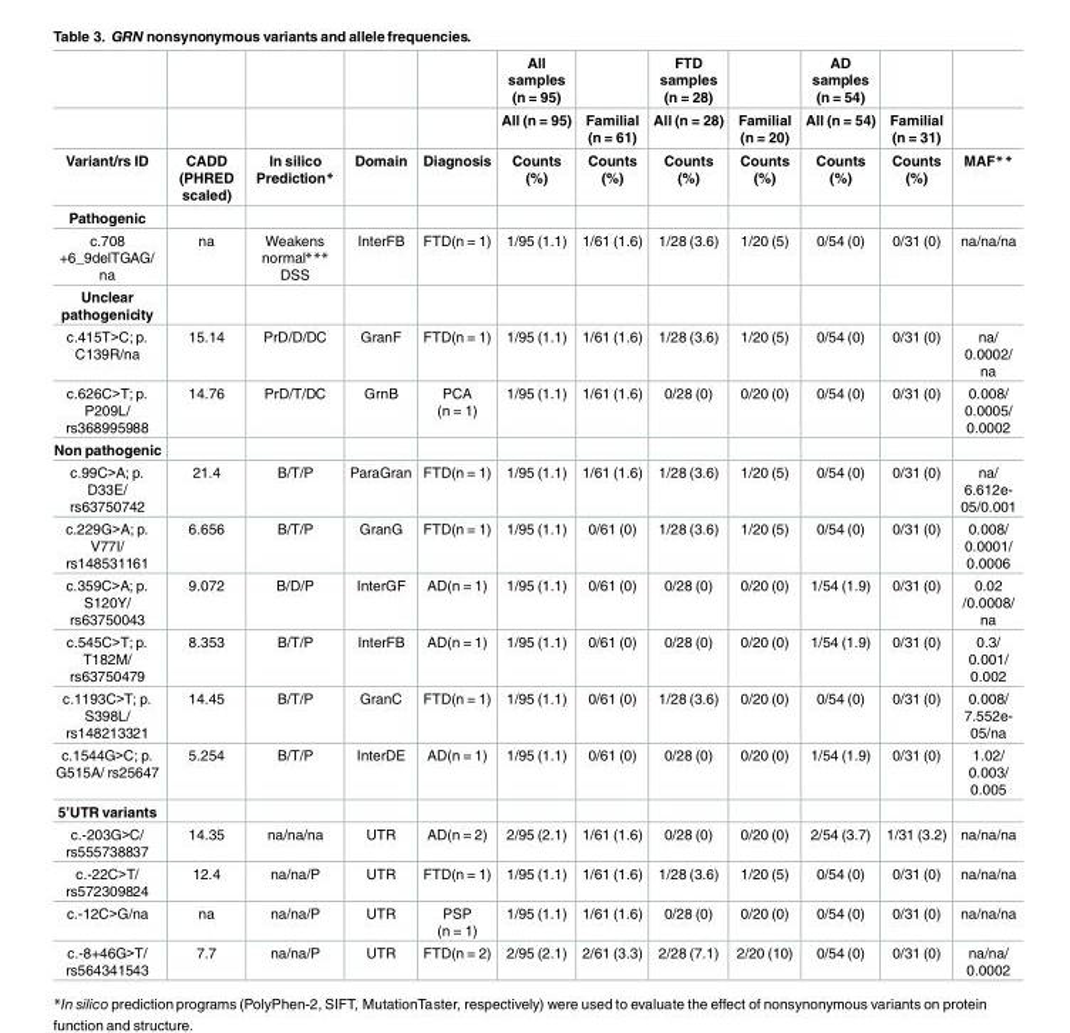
<table><thead><tr><td rowspan="3">Variant/rs ID</td><td rowspan="3">CADD (PHRED scaled)</td><td rowspan="3">In silico Prediction*</td><td rowspan="3">Domain</td><td rowspan="3">Diagnosis</td><td rowspan="3">All samples (n = 95) All (n = 95) Counts (%)</td><td rowspan="3">Familial (n = 61) Counts (%)</td><td rowspan="3">FTD samples (n = 28) All (n = 28) Counts (%)</td><td rowspan="3">Familial (n = 20) Counts (%)</td><td rowspan="3">AD samples (n = 54) All (n = 54) Counts (%)</td><td rowspan="3">Familial (n = 31) Counts (%)</td><td rowspan="3">MAF**</td></tr><tr></tr><tr></tr></thead><tbody><tr><td colspan="12">Pathogenic</td></tr><tr><td>c.708 +6_9delTGAG/ na</td><td>na</td><td>Weakens normal*** DSS</td><td>InterFB</td><td>FTD(n = 1)</td><td>1/95 (1.1)</td><td>1/61 (1.6)</td><td>1/28 (3.6)</td><td>1/20 (5)</td><td>0/54 (0)</td><td>0/31 (0)</td><td>na/na/na</td></tr><tr><td colspan="12">Unclear pathogenicity</td></tr><tr><td>c.415T&gt;C; p. C139R/na</td><td>15.14</td><td>PrD/D/DC</td><td>GranF</td><td>FTD(n = 1)</td><td>1/95 (1.1)</td><td>1/61 (1.6)</td><td>1/28 (3.6)</td><td>1/20 (5)</td><td>0/54 (0)</td><td>0/31 (0)</td><td>na/ 0.0002/ na</td></tr><tr><td>c.626C&gt;T; p. P209L/ rs368995988</td><td>14.76</td><td>PrD/T/DC</td><td>GrnB</td><td>PCA (n = 1)</td><td>1/95 (1.1)</td><td>1/61 (1.6)</td><td>0/28 (0)</td><td>0/20 (0)</td><td>0/54 (0)</td><td>0/31 (0)</td><td>0.008/ 0.0005/ 0.0002</td></tr><tr><td colspan="12">Non pathogenic</td></tr><tr><td>c.99C&gt;A; p. D33E/ rs63750742</td><td>21.4</td><td>B/T/P</td><td>ParaGran</td><td>FTD(n = 1)</td><td>1/95 (1.1)</td><td>1/61 (1.6)</td><td>1/28 (3.6)</td><td>1/20 (5)</td><td>0/54 (0)</td><td>0/31 (0)</td><td>na/ 6.612e- 05/0.001</td></tr><tr><td>c.229G&gt;A; p. V77I/ rs148531161</td><td>6.656</td><td>B/T/P</td><td>GranG</td><td>FTD(n = 1)</td><td>1/95 (1.1)</td><td>0/61 (0)</td><td>1/28 (3.6)</td><td>1/20 (5)</td><td>0/54 (0)</td><td>0/31 (0)</td><td>0.008/ 0.0001/ 0.0006</td></tr><tr><td>c.359C&gt;A; p. S120Y/ rs63750043</td><td>9.072</td><td>B/D/P</td><td>InterGF</td><td>AD(n = 1)</td><td>1/95 (1.1)</td><td>0/61 (0)</td><td>0/28 (0)</td><td>0/20 (0)</td><td>1/54 (1.9)</td><td>0/31 (0)</td><td>0.02 /0.0008/ na</td></tr><tr><td>c.545C&gt;T; p. T182M/ rs63750479</td><td>8.353</td><td>B/T/P</td><td>InterFB</td><td>AD(n = 1)</td><td>1/95 (1.1)</td><td>0/61 (0)</td><td>0/28 (0)</td><td>0/20 (0)</td><td>1/54 (1.9)</td><td>0/31 (0)</td><td>0.3/ 0.001/ 0.002</td></tr><tr><td>c.1193C&gt;T; p. S398L/ rs148213321</td><td>14.45</td><td>B/T/P</td><td>GranC</td><td>FTD(n = 1)</td><td>1/95 (1.1)</td><td>0/61 (0)</td><td>1/28 (3.6)</td><td>0/20 (0)</td><td>0/54 (0)</td><td>0/31 (0)</td><td>0.008/ 7.552e- 05/na</td></tr><tr><td>c.1544G&gt;C; p. G515A/ rs25647</td><td>5.254</td><td>B/T/P</td><td>InterDE</td><td>AD(n = 1)</td><td>1/95 (1.1)</td><td>0/61 (0)</td><td>0/28 (0)</td><td>0/20 (0)</td><td>1/54 (1.9)</td><td>0/31 (0)</td><td>1.02/ 0.003/ 0.005</td></tr><tr><td colspan="12">5’UTR variants</td></tr><tr><td>c.-203G&gt;C/ rs555738837</td><td>14.35</td><td>na/na/na</td><td>UTR</td><td>AD(n = 2)</td><td>2/95 (2.1)</td><td>1/61 (1.6)</td><td>0/28 (0)</td><td>0/20 (0)</td><td>2/54 (3.7)</td><td>1/31 (3.2)</td><td>na/na/na</td></tr><tr><td>c.-22C&gt;T/ rs572309824</td><td>12.4</td><td>na/na/P</td><td>UTR</td><td>FTD(n = 1)</td><td>1/95 (1.1)</td><td>1/61 (1.6)</td><td>1/28 (3.6)</td><td>1/20 (5)</td><td>0/54 (0)</td><td>0/31 (0)</td><td>na/na/na</td></tr><tr><td>c.-12C&gt;G/na</td><td>na</td><td>na/na/P</td><td>UTR</td><td>PSP (n = 1)</td><td>1/95 (1.1)</td><td>1/61 (1.6)</td><td>0/28 (0)</td><td>0/20 (0)</td><td>0/54 (0)</td><td>0/31 (0)</td><td>na/na/na</td></tr><tr><td>c.-8+46G&gt;T/ rs564341543</td><td>7.7</td><td>na/na/P</td><td>UTR</td><td>FTD(n = 2)</td><td>2/95 (2.1)</td><td>2/61 (3.3)</td><td>2/28 (7.1)</td><td>2/20 (10)</td><td>0/54 (0)</td><td>0/31 (0)</td><td>na/na/ 0.0002</td></tr></tbody></table>